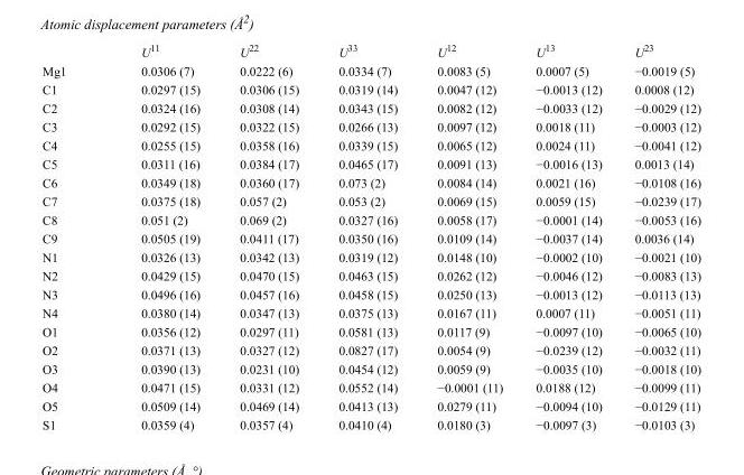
<table><thead><tr><td></td><td>U<sup>11</sup></td><td>U<sup>22</sup></td><td>U<sup>33</sup></td><td>U<sup>12</sup></td><td>U<sup>13</sup></td><td>U<sup>23</sup></td></tr></thead><tbody><tr><td>Mg1</td><td>0.0306 (7)</td><td>0.0222 (6)</td><td>0.0334 (7)</td><td>0.0083 (5)</td><td>0.0007 (5)</td><td>−0.0019 (5)</td></tr><tr><td>C1</td><td>0.0297 (15)</td><td>0.0306 (15)</td><td>0.0319 (14)</td><td>0.0047 (12)</td><td>−0.0013 (12)</td><td>0.0008 (12)</td></tr><tr><td>C2</td><td>0.0324 (16)</td><td>0.0308 (14)</td><td>0.0343 (15)</td><td>0.0082 (12)</td><td>−0.0033 (12)</td><td>−0.0029 (12)</td></tr><tr><td>C3</td><td>0.0292 (15)</td><td>0.0322 (15)</td><td>0.0266 (13)</td><td>0.0097 (12)</td><td>0.0018 (11)</td><td>−0.0003 (12)</td></tr><tr><td>C4</td><td>0.0255 (15)</td><td>0.0358 (16)</td><td>0.0339 (15)</td><td>0.0065 (12)</td><td>0.0024 (11)</td><td>−0.0041 (12)</td></tr><tr><td>C5</td><td>0.0311 (16)</td><td>0.0384 (17)</td><td>0.0465 (17)</td><td>0.0091 (13)</td><td>−0.0016 (13)</td><td>0.0013 (14)</td></tr><tr><td>C6</td><td>0.0349 (18)</td><td>0.0360 (17)</td><td>0.073 (2)</td><td>0.0084 (14)</td><td>0.0021 (16)</td><td>−0.0108 (16)</td></tr><tr><td>C7</td><td>0.0375 (18)</td><td>0.057 (2)</td><td>0.053 (2)</td><td>0.0069 (15)</td><td>0.0059 (15)</td><td>−0.0239 (17)</td></tr><tr><td>C8</td><td>0.051 (2)</td><td>0.069 (2)</td><td>0.0327 (16)</td><td>0.0058 (17)</td><td>−0.0001 (14)</td><td>−0.0053 (16)</td></tr><tr><td>C9</td><td>0.0505 (19)</td><td>0.0411 (17)</td><td>0.0350 (16)</td><td>0.0109 (14)</td><td>−0.0037 (14)</td><td>0.0036 (14)</td></tr><tr><td>N1</td><td>0.0326 (13)</td><td>0.0342 (13)</td><td>0.0319 (12)</td><td>0.0148 (10)</td><td>−0.0002 (10)</td><td>−0.0021 (10)</td></tr><tr><td>N2</td><td>0.0429 (15)</td><td>0.0470 (15)</td><td>0.0463 (15)</td><td>0.0262 (12)</td><td>−0.0046 (12)</td><td>−0.0083 (13)</td></tr><tr><td>N3</td><td>0.0496 (16)</td><td>0.0457 (16)</td><td>0.0458 (15)</td><td>0.0250 (13)</td><td>−0.0013 (12)</td><td>−0.0113 (13)</td></tr><tr><td>N4</td><td>0.0380 (14)</td><td>0.0347 (13)</td><td>0.0375 (13)</td><td>0.0167 (11)</td><td>0.0007 (11)</td><td>−0.0051 (11)</td></tr><tr><td>O1</td><td>0.0356 (12)</td><td>0.0297 (11)</td><td>0.0581 (13)</td><td>0.0117 (9)</td><td>−0.0097 (10)</td><td>−0.0065 (10)</td></tr><tr><td>O2</td><td>0.0371 (13)</td><td>0.0327 (12)</td><td>0.0827 (17)</td><td>0.0054 (9)</td><td>−0.0239 (12)</td><td>−0.0032 (11)</td></tr><tr><td>O3</td><td>0.0390 (13)</td><td>0.0231 (10)</td><td>0.0454 (12)</td><td>0.0059 (9)</td><td>−0.0035 (10)</td><td>−0.0018 (10)</td></tr><tr><td>O4</td><td>0.0471 (15)</td><td>0.0331 (12)</td><td>0.0552 (14)</td><td>−0.0001 (11)</td><td>0.0188 (12)</td><td>−0.0099 (11)</td></tr><tr><td>O5</td><td>0.0509 (14)</td><td>0.0469 (14)</td><td>0.0413 (13)</td><td>0.0279 (11)</td><td>−0.0094 (10)</td><td>−0.0129 (11)</td></tr><tr><td>S1</td><td>0.0359 (4)</td><td>0.0357 (4)</td><td>0.0410 (4)</td><td>0.0180 (3)</td><td>−0.0097 (3)</td><td>−0.0103 (3)</td></tr></tbody></table>